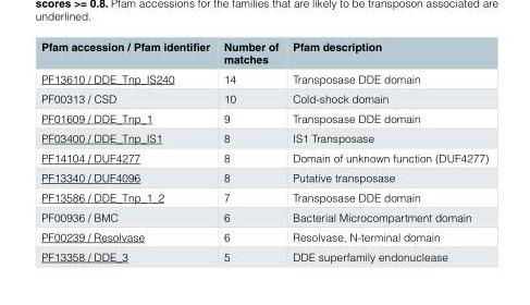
<table><thead><tr><td>Pfam accession / Pfam identifier</td><td>Number of matches</td><td>Pfam description</td></tr></thead><tbody><tr><td>PF13610 / DDE_Tnp_IS240</td><td>14</td><td>Transposase DDE domain</td></tr><tr><td>PF00313 / CSD</td><td>10</td><td>Cold-shock domain</td></tr><tr><td>PF01609 / DDE_Tnp_1</td><td>9</td><td>Transposase DDE domain</td></tr><tr><td>PF03400 / DDE_Tnp_IS1</td><td>8</td><td>IS1 Transposase</td></tr><tr><td>PF14104 / DUF4277</td><td>8</td><td>Domain of unknown function (DUF4277)</td></tr><tr><td>PF13340 / DUF4096</td><td>8</td><td>Putative transposase</td></tr><tr><td>PF13586 / DDE_Tnp_1_2</td><td>7</td><td>Transposase DDE domain</td></tr><tr><td>PF00936 / BMC</td><td>6</td><td>Bacterial Microcompartment domain</td></tr><tr><td>PF00239 / Resolvase</td><td>6</td><td>Resolvase, N-terminal domain</td></tr><tr><td>PF13358 / DDE_3</td><td>5</td><td>DDE superfamily endonuclease</td></tr></tbody></table>